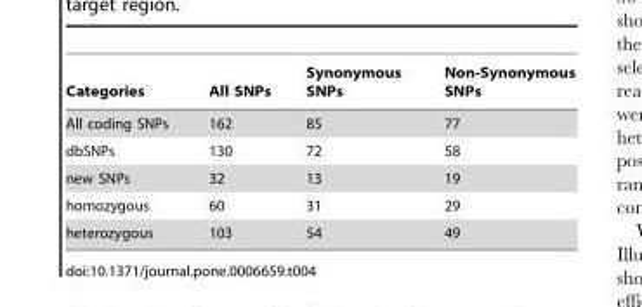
<table><thead><tr><td>Categories</td><td>All SNPs</td><td>Synonymous SNPs</td><td>Non-Synonymous SNPs</td></tr></thead><tbody><tr><td>All coding SNPs</td><td>162</td><td>85</td><td>77</td></tr><tr><td>dbSNPs</td><td>130</td><td>72</td><td>58</td></tr><tr><td>new SNPs</td><td>32</td><td>13</td><td>19</td></tr><tr><td>homozygous</td><td>60</td><td>31</td><td>29</td></tr><tr><td>heterozygous</td><td>103</td><td>54</td><td>49</td></tr></tbody></table>